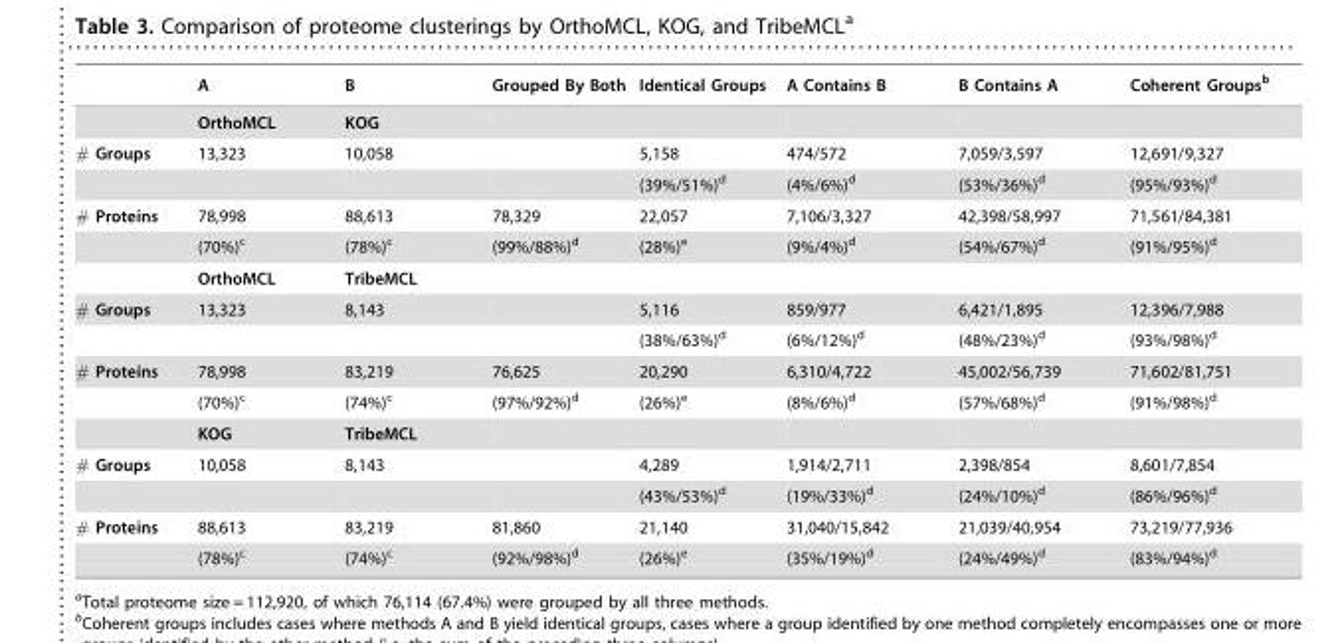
<table><thead><tr><td></td><td>A</td><td>B</td><td>Grouped By Both</td><td>Identical Groups</td><td>A Contains B</td><td>B Contains A</td><td>Coherent Groups<sup>b</sup></td></tr></thead><tbody><tr><td></td><td>OrthoMCL</td><td>KOG</td><td></td><td></td><td></td><td></td><td></td></tr><tr><td rowspan="2"># Groups</td><td>13,323</td><td>10,058</td><td></td><td>5,158</td><td>474/572</td><td>7,059/3,597</td><td>12,691/9,327</td></tr><tr><td></td><td></td><td></td><td>(39%/51%)<sup>d</sup></td><td>(4%/6%)<sup>d</sup></td><td>(53%/36%)<sup>d</sup></td><td>(95%/93%)<sup>d</sup></td></tr><tr><td rowspan="3"># Proteins</td><td>78,998</td><td>88,613</td><td>78,329</td><td>22,057</td><td>7,106/3,327</td><td>42,398/58,997</td><td>71,561/84,381</td></tr><tr><td>(70%)<sup>c</sup></td><td>(78%)<sup>c</sup></td><td>(99%/88%)<sup>d</sup></td><td>(28%)<sup>e</sup></td><td>(9%/4%)<sup>d</sup></td><td>(54%/67%)<sup>d</sup></td><td>(91%/95%)<sup>d</sup></td></tr><tr><td>OrthoMCL</td><td>TribeMCL</td><td></td><td></td><td></td><td></td><td></td></tr><tr><td rowspan="2"># Groups</td><td>13,323</td><td>8,143</td><td></td><td>5,116</td><td>859/977</td><td>6,421/1,895</td><td>12,396/7,988</td></tr><tr><td></td><td></td><td></td><td>(38%/63%)<sup>d</sup></td><td>(6%/12%)<sup>d</sup></td><td>(48%/23%)<sup>d</sup></td><td>(93%/98%)<sup>d</sup></td></tr><tr><td rowspan="3"># Proteins</td><td>78,998</td><td>83,219</td><td>76,625</td><td>20,290</td><td>6,310/4,722</td><td>45,002/56,739</td><td>71,602/81,751</td></tr><tr><td>(70%)<sup>c</sup></td><td>(74%)<sup>c</sup></td><td>(97%/92%)<sup>d</sup></td><td>(26%)<sup>e</sup></td><td>(8%/6%)<sup>d</sup></td><td>(57%/68%)<sup>d</sup></td><td>(91%/98%)<sup>d</sup></td></tr><tr><td>KOG</td><td>TribeMCL</td><td></td><td></td><td></td><td></td><td></td></tr><tr><td rowspan="2"># Groups</td><td>10,058</td><td>8,143</td><td></td><td>4,289</td><td>1,914/2,711</td><td>2,398/854</td><td>8,601/7,854</td></tr><tr><td></td><td></td><td></td><td>(43%/53%)<sup>d</sup></td><td>(19%/33%)<sup>d</sup></td><td>(24%/10%)<sup>d</sup></td><td>(86%/96%)<sup>d</sup></td></tr><tr><td rowspan="2"># Proteins</td><td>88,613</td><td>83,219</td><td>81,860</td><td>21,140</td><td>31,040/15,842</td><td>21,039/40,954</td><td>73,219/77,936</td></tr><tr><td>(78%)<sup>c</sup></td><td>(74%)<sup>c</sup></td><td>(92%/98%)<sup>d</sup></td><td>(26%)<sup>e</sup></td><td>(35%/19%)<sup>d</sup></td><td>(24%/49%)<sup>d</sup></td><td>(83%/94%)<sup>d</sup></td></tr></tbody></table>